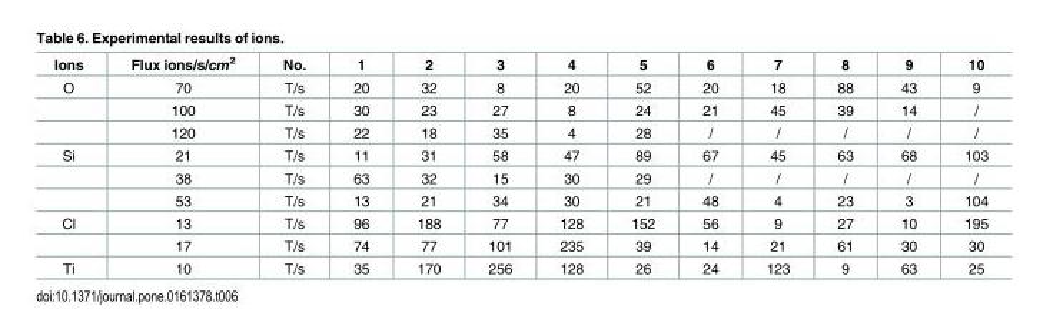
<table><thead><tr><td>Ions</td><td>Flux ions/s/cm<sup>2</sup></td><td>No.</td><td>1</td><td>2</td><td>3</td><td>4</td><td>5</td><td>6</td><td>7</td><td>8</td><td>9</td><td>10</td></tr></thead><tbody><tr><td rowspan="3">O</td><td>70</td><td>T/s</td><td>20</td><td>32</td><td>8</td><td>20</td><td>52</td><td>20</td><td>18</td><td>88</td><td>43</td><td>9</td></tr><tr><td>100</td><td>T/s</td><td>30</td><td>23</td><td>27</td><td>8</td><td>24</td><td>21</td><td>45</td><td>39</td><td>14</td><td>/</td></tr><tr><td>120</td><td>T/s</td><td>22</td><td>18</td><td>35</td><td>4</td><td>28</td><td>/</td><td>/</td><td>/</td><td>/</td><td>/</td></tr><tr><td rowspan="3">Si</td><td>21</td><td>T/s</td><td>11</td><td>31</td><td>58</td><td>47</td><td>89</td><td>67</td><td>45</td><td>63</td><td>68</td><td>103</td></tr><tr><td>38</td><td>T/s</td><td>63</td><td>32</td><td>15</td><td>30</td><td>29</td><td>/</td><td>/</td><td>/</td><td>/</td><td>/</td></tr><tr><td>53</td><td>T/s</td><td>13</td><td>21</td><td>34</td><td>30</td><td>21</td><td>48</td><td>4</td><td>23</td><td>3</td><td>104</td></tr><tr><td rowspan="2">Cl</td><td>13</td><td>T/s</td><td>96</td><td>188</td><td>77</td><td>128</td><td>152</td><td>56</td><td>9</td><td>27</td><td>10</td><td>195</td></tr><tr><td>17</td><td>T/s</td><td>74</td><td>77</td><td>101</td><td>235</td><td>39</td><td>14</td><td>21</td><td>61</td><td>30</td><td>30</td></tr><tr><td>Ti</td><td>10</td><td>T/s</td><td>35</td><td>170</td><td>256</td><td>128</td><td>26</td><td>24</td><td>123</td><td>9</td><td>63</td><td>25</td></tr></tbody></table>